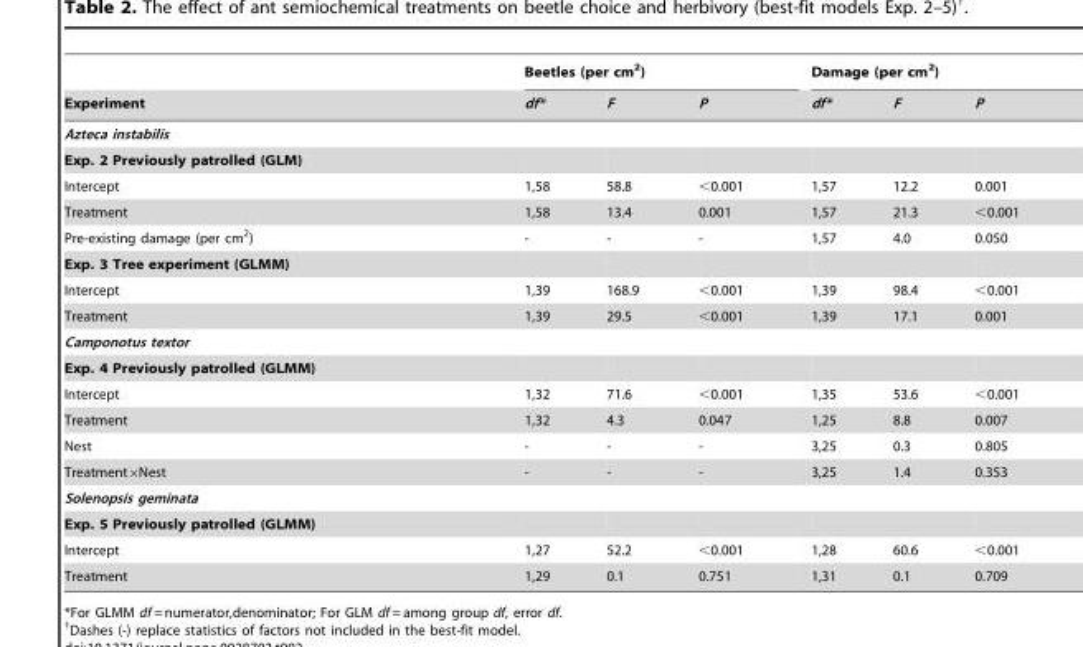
<table><thead><tr><td rowspan="2">Experiment</td><td colspan="3">Beetles (per cm<sup>2</sup>)</td><td colspan="3">Damage (per cm<sup>2</sup>)</td></tr><tr><td>df*</td><td>F</td><td>P</td><td>df*</td><td>F</td><td>P</td></tr></thead><tbody><tr><td colspan="7">Azteca instabilis</td></tr><tr><td colspan="7">Exp. 2 Previously patrolled (GLM)</td></tr><tr><td>Intercept</td><td>1,58</td><td>58.8</td><td>&lt;0.001</td><td>1,57</td><td>12.2</td><td>0.001</td></tr><tr><td>Treatment</td><td>1,58</td><td>13.4</td><td>0.001</td><td>1,57</td><td>21.3</td><td>&lt;0.001</td></tr><tr><td>Pre-existing damage (per cm<sup>2</sup>)</td><td>-</td><td>-</td><td>-</td><td>1,57</td><td>4.0</td><td>0.050</td></tr><tr><td colspan="7">Exp. 3 Tree experiment (GLMM)</td></tr><tr><td>Intercept</td><td>1,39</td><td>168.9</td><td>&lt;0.001</td><td>1,39</td><td>98.4</td><td>&lt;0.001</td></tr><tr><td>Treatment</td><td>1,39</td><td>29.5</td><td>&lt;0.001</td><td>1,39</td><td>17.1</td><td>0.001</td></tr><tr><td colspan="7">Camponotus textor</td></tr><tr><td colspan="7">Exp. 4 Previously patrolled (GLMM)</td></tr><tr><td>Intercept</td><td>1,32</td><td>71.6</td><td>&lt;0.001</td><td>1,35</td><td>53.6</td><td>&lt;0.001</td></tr><tr><td>Treatment</td><td>1,32</td><td>4.3</td><td>0.047</td><td>1,25</td><td>8.8</td><td>0.007</td></tr><tr><td>Nest</td><td>-</td><td>-</td><td>-</td><td>3,25</td><td>0.3</td><td>0.805</td></tr><tr><td>Treatment×Nest</td><td>-</td><td>-</td><td>-</td><td>3,25</td><td>1.4</td><td>0.353</td></tr><tr><td colspan="7">Solenopsis geminata</td></tr><tr><td colspan="7">Exp. 5 Previously patrolled (GLMM)</td></tr><tr><td>Intercept</td><td>1,27</td><td>52.2</td><td>&lt;0.001</td><td>1,28</td><td>60.6</td><td>&lt;0.001</td></tr><tr><td>Treatment</td><td>1,29</td><td>0.1</td><td>0.751</td><td>1,31</td><td>0.1</td><td>0.709</td></tr></tbody></table>